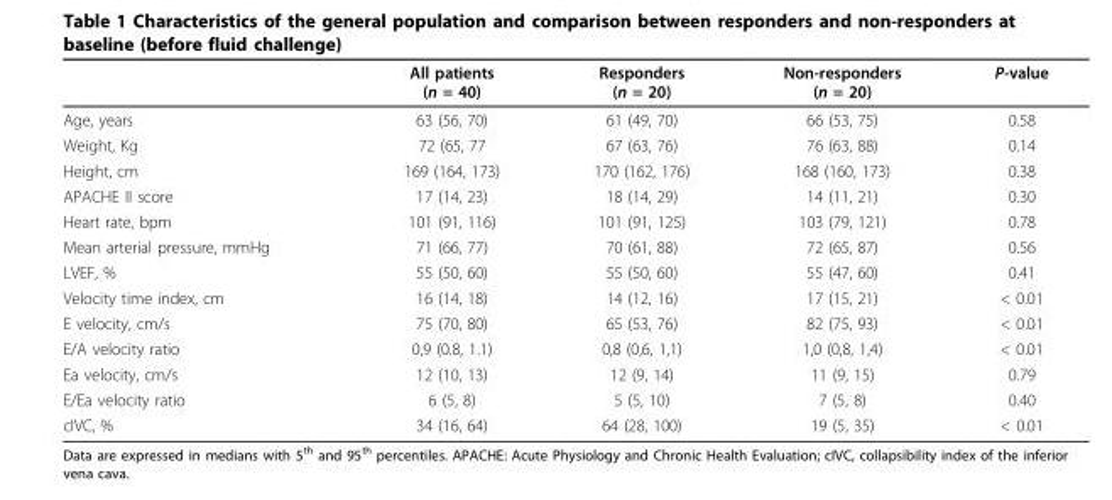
<table><thead><tr><td></td><td>All patients (n = 40)</td><td>Responders (n = 20)</td><td>Non-responders (n = 20)</td><td>P-value</td></tr></thead><tbody><tr><td>Age, years</td><td>63 (56, 70)</td><td>61 (49, 70)</td><td>66 (53, 75)</td><td>0.58</td></tr><tr><td>Weight, Kg</td><td>72 (65, 77</td><td>67 (63, 76)</td><td>76 (63, 88)</td><td>0.14</td></tr><tr><td>Height, cm</td><td>169 (164, 173)</td><td>170 (162, 176)</td><td>168 (160, 173)</td><td>0.38</td></tr><tr><td>APACHE II score</td><td>17 (14, 23)</td><td>18 (14, 29)</td><td>14 (11, 21)</td><td>0.30</td></tr><tr><td>Heart rate, bpm</td><td>101 (91, 116)</td><td>101 (91, 125)</td><td>103 (79, 121)</td><td>0.78</td></tr><tr><td>Mean arterial pressure, mmHg</td><td>71 (66, 77)</td><td>70 (61, 88)</td><td>72 (65, 87)</td><td>0.56</td></tr><tr><td>LVEF, %</td><td>55 (50, 60)</td><td>55 (50, 60)</td><td>55 (47, 60)</td><td>0.41</td></tr><tr><td>Velocity time index, cm</td><td>16 (14, 18)</td><td>14 (12, 16)</td><td>17 (15, 21)</td><td>&lt; 0.01</td></tr><tr><td>E velocity, cm/s</td><td>75 (70, 80)</td><td>65 (53, 76)</td><td>82 (75, 93)</td><td>&lt; 0.01</td></tr><tr><td>E/A velocity ratio</td><td>0,9 (0.8, 1.1)</td><td>0,8 (0,6, 1,1)</td><td>1,0 (0,8, 1,4)</td><td>&lt; 0.01</td></tr><tr><td>Ea velocity, cm/s</td><td>12 (10, 13)</td><td>12 (9, 14)</td><td>11 (9, 15)</td><td>0.79</td></tr><tr><td>E/Ea velocity ratio</td><td>6 (5, 8)</td><td>5 (5, 10)</td><td>7 (5, 8)</td><td>0.40</td></tr><tr><td>cIVC, %</td><td>34 (16, 64)</td><td>64 (28, 100)</td><td>19 (5, 35)</td><td>&lt; 0.01</td></tr></tbody></table>